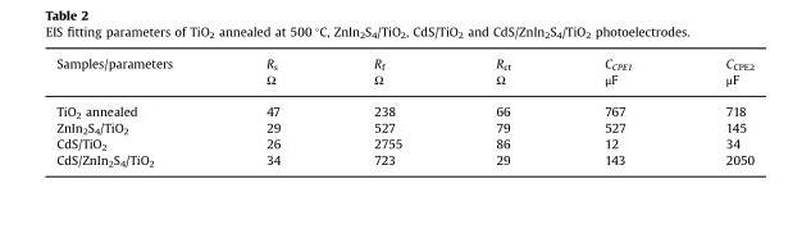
<table><thead><tr><td rowspan="2">Samples/parameters</td><td rowspan="2">R<sub>s</sub> Ω</td><td rowspan="2">R<sub>f</sub> Ω</td><td rowspan="2">R<sub>ct</sub> Ω</td><td rowspan="2">C<sub>CPE1</sub> μF</td><td rowspan="2">C<sub>CPE2</sub> μF</td></tr><tr></tr></thead><tbody><tr><td>TiO<sub>2</sub> annealed</td><td>47</td><td>238</td><td>66</td><td>767</td><td>718</td></tr><tr><td>ZnIn<sub>2</sub>S<sub>4</sub>/TiO<sub>2</sub></td><td>29</td><td>527</td><td>79</td><td>527</td><td>145</td></tr><tr><td>CdS/TiO<sub>2</sub></td><td>26</td><td>2755</td><td>86</td><td>12</td><td>34</td></tr><tr><td>CdS/ZnIn<sub>2</sub>S<sub>4</sub>/TiO<sub>2</sub></td><td>34</td><td>723</td><td>29</td><td>143</td><td>2050</td></tr></tbody></table>